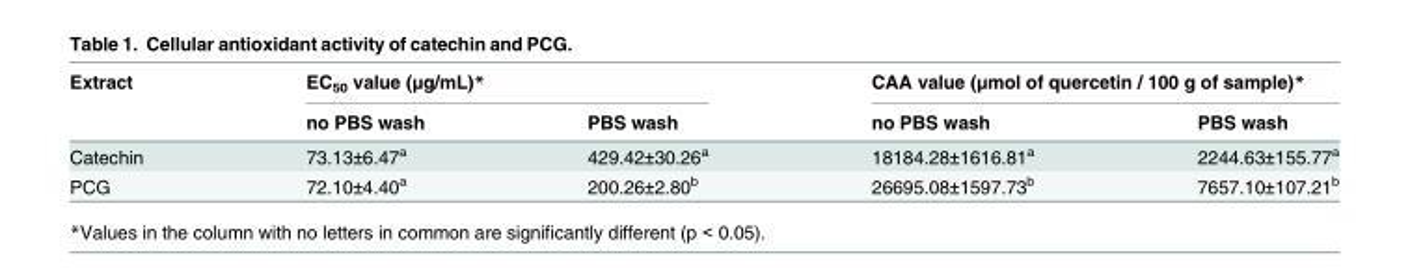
<table><thead><tr><td rowspan="2">Extract</td><td colspan="2">EC<sub>50</sub> value (μg/mL)*</td><td colspan="2">CAA value (μmol of quercetin / 100 g of sample)*</td></tr><tr><td>no PBS wash</td><td>PBS wash</td><td>no PBS wash</td><td>PBS wash</td></tr></thead><tbody><tr><td>Catechin</td><td>73.13±6.47<sup>a</sup></td><td>429.42±30.26<sup>a</sup></td><td>18184.28±1616.81<sup>a</sup></td><td>2244.63±155.77<sup>a</sup></td></tr><tr><td>PCG</td><td>72.10±4.40<sup>a</sup></td><td>200.26±2.80<sup>b</sup></td><td>26695.08±1597.73<sup>b</sup></td><td>7657.10±107.21<sup>b</sup></td></tr></tbody></table>